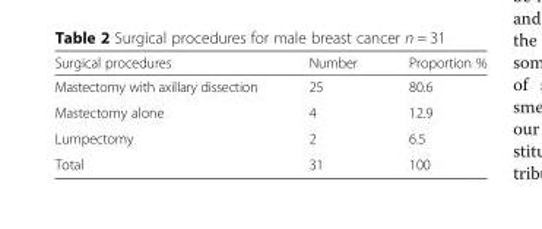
<table><thead><tr><td>Surgical procedures</td><td>Number</td><td>Proportion %</td></tr></thead><tbody><tr><td>Mastectomy with axillary dissection</td><td>25</td><td>80.6</td></tr><tr><td>Mastectomy alone</td><td>4</td><td>12.9</td></tr><tr><td>Lumpectomy</td><td>2</td><td>6.5</td></tr><tr><td>Total</td><td>31</td><td>100</td></tr></tbody></table>